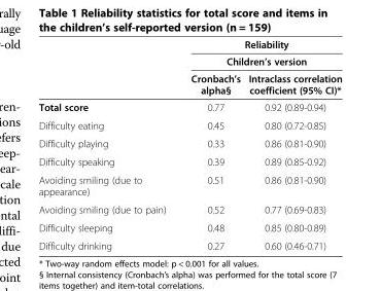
<table><thead><tr><td rowspan="3"></td><td rowspan="2" colspan="2">Reliability Children’s version</td></tr><tr></tr><tr><td>Cronbach’s alpha§</td><td>Intraclass correlation coefficient (95% CI)*</td></tr></thead><tbody><tr><td>Total score</td><td>0.77</td><td>0.92 (0.89-0.94)</td></tr><tr><td>Difficulty eating</td><td>0.45</td><td>0.80 (0.72-0.85)</td></tr><tr><td>Difficulty playing</td><td>0.33</td><td>0.86 (0.81-0.90)</td></tr><tr><td>Difficulty speaking</td><td>0.39</td><td>0.89 (0.85-0.92)</td></tr><tr><td>Avoiding smiling (due to appearance)</td><td>0.51</td><td>0.86 (0.81-0.90)</td></tr><tr><td>Avoiding smiling (due to pain)</td><td>0.52</td><td>0.77 (0.69-0.83)</td></tr><tr><td>Difficulty sleeping</td><td>0.48</td><td>0.85 (0.80-0.89)</td></tr><tr><td>Difficulty drinking</td><td>0.27</td><td>0.60 (0.46-0.71)</td></tr></tbody></table>